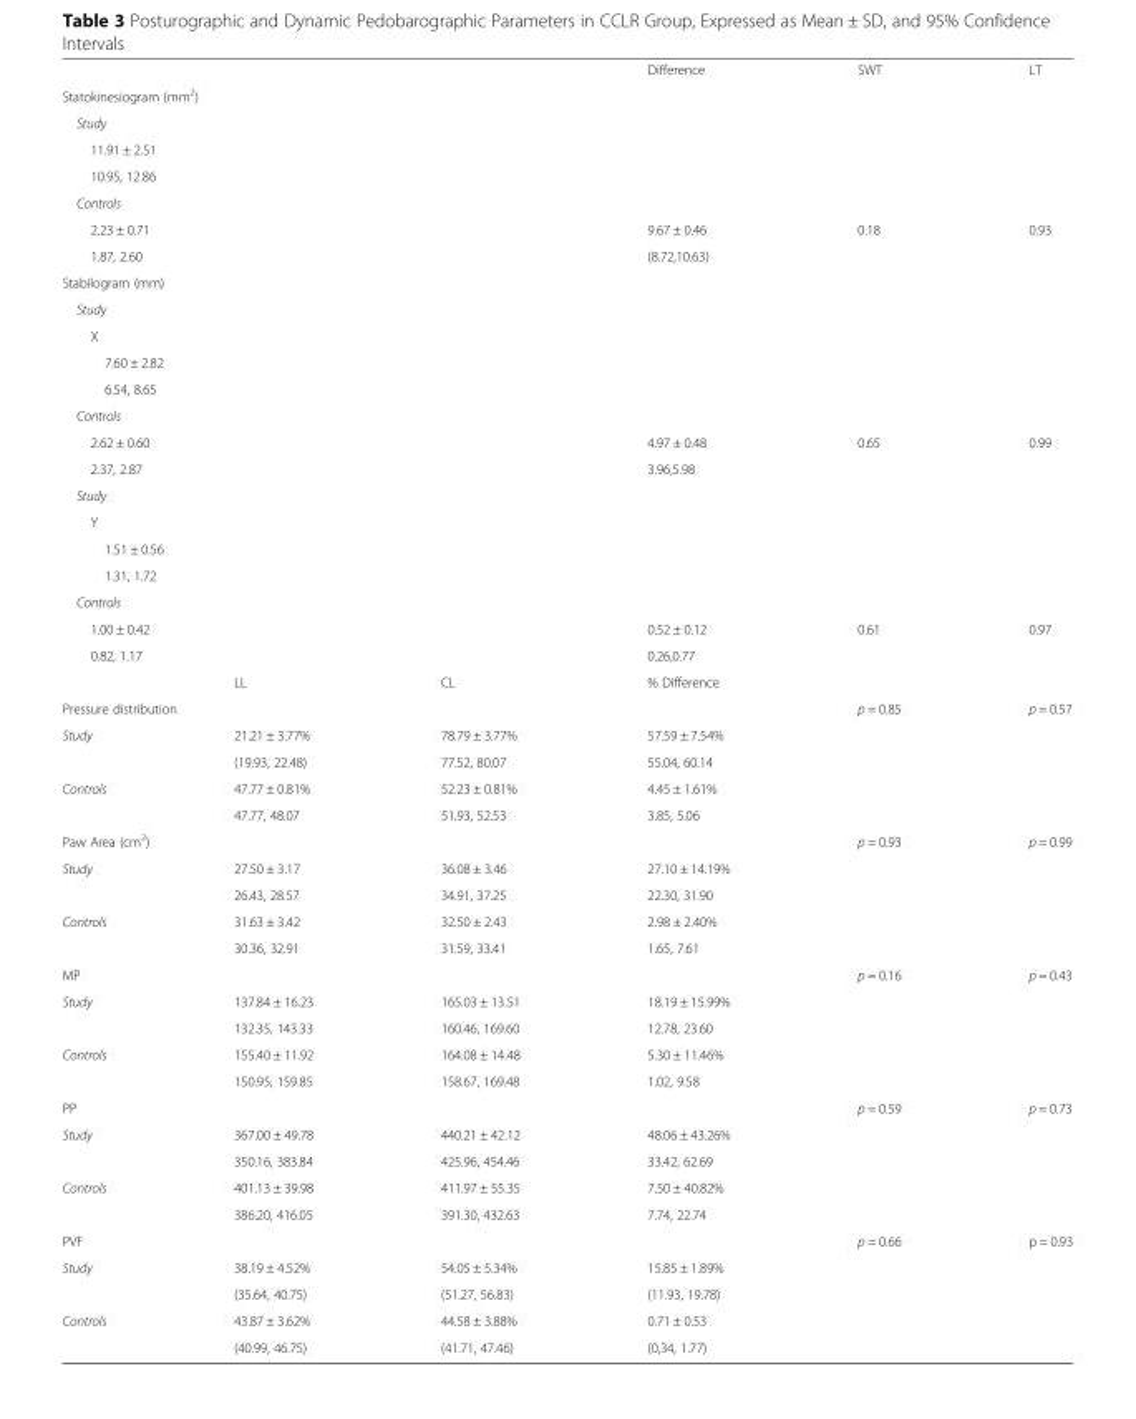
<table><thead><tr><td></td><td></td><td></td><td>Difference</td><td>SWT</td><td>LT</td></tr></thead><tbody><tr><td colspan="6">Statokinesiogram (mm<sup>2</sup>)</td></tr><tr><td colspan="6">Study</td></tr><tr><td colspan="5">11.91 ± 2.51</td><td rowspan="2"></td></tr><tr><td colspan="5">10.95, 12.86</td></tr><tr><td colspan="6">Controls</td></tr><tr><td colspan="3">2.23 ± 0.71</td><td>9.67 ± 0.46</td><td>0.18</td><td>0.93</td></tr><tr><td colspan="3">1.87, 2.60</td><td>(8.72,10.63)</td><td></td><td></td></tr><tr><td colspan="6">Stabilogram (mm)</td></tr><tr><td colspan="6">Study</td></tr><tr><td colspan="6">X</td></tr><tr><td colspan="5">7.60 ± 2.82</td><td rowspan="2"></td></tr><tr><td colspan="5">6.54, 8.65</td></tr><tr><td colspan="6">Controls</td></tr><tr><td colspan="3">2.62 ± 0.60</td><td>4.97 ± 0.48</td><td>0.65</td><td>0.99</td></tr><tr><td colspan="3">2.37, 2.87</td><td>3.96,5.98</td><td></td><td></td></tr><tr><td colspan="6">Study</td></tr><tr><td colspan="6">Y</td></tr><tr><td colspan="6">1.51 ± 0.56</td></tr><tr><td colspan="6">1.31, 1.72</td></tr><tr><td colspan="6">Controls</td></tr><tr><td colspan="3">1.00 ± 0.42</td><td>0.52 ± 0.12</td><td>0.61</td><td>0.97</td></tr><tr><td colspan="3">0.82, 1.17</td><td>0.26,0.77</td><td></td><td></td></tr><tr><td></td><td>LL</td><td>CL</td><td>% Difference</td><td></td><td></td></tr><tr><td colspan="4">Pressure distribution</td><td>p = 0.85</td><td>p = 0.57</td></tr><tr><td rowspan="2">Study</td><td>21.21 ± 3.77%</td><td>78.79 ± 3.77%</td><td>57.59 ± 7.54%</td><td></td><td></td></tr><tr><td>(19.93, 22.48)</td><td>77.52, 80.07</td><td>55.04, 60.14</td><td></td><td></td></tr><tr><td rowspan="2">Controls</td><td>47.77 ± 0.81%</td><td>52.23 ± 0.81%</td><td>4.45 ± 1.61%</td><td></td><td></td></tr><tr><td>47.77, 48.07</td><td>51.93, 52.53</td><td>3.85, 5.06</td><td></td><td></td></tr><tr><td colspan="4">Paw Area (cm<sup>2</sup>)</td><td>p = 0.93</td><td>p = 0.99</td></tr><tr><td rowspan="2">Study</td><td>27.50 ± 3.17</td><td>36.08 ± 3.46</td><td>27.10 ± 14.19%</td><td></td><td rowspan="2"></td></tr><tr><td>26.43, 28.57</td><td>34.91, 37.25</td><td>22.30, 31.90</td><td></td></tr><tr><td rowspan="2">Controls</td><td>31.63 ± 3.42</td><td>32.50 ± 2.43</td><td>2.98 ± 2.40%</td><td></td><td rowspan="2"></td></tr><tr><td>30.36, 32.91</td><td>31.59, 33.41</td><td>1.65, 7.61</td><td></td></tr><tr><td colspan="4">MP</td><td>p = 0.16</td><td>p = 0.43</td></tr><tr><td rowspan="2">Study</td><td>137.84 ± 16.23</td><td>165.03 ± 13.51</td><td>18.19 ± 15.99%</td><td></td><td></td></tr><tr><td>132.35, 143.33</td><td>160.46, 169.60</td><td>12.78, 23.60</td><td></td><td></td></tr><tr><td rowspan="2">Controls</td><td>155.40 ± 11.92</td><td>164.08 ± 14.48</td><td>5.30 ± 11.46%</td><td></td><td></td></tr><tr><td>150.95, 159.85</td><td>158.67, 169.48</td><td>1.02, 9.58</td><td></td><td></td></tr><tr><td colspan="4">PP</td><td>p = 0.59</td><td>p = 0.73</td></tr><tr><td rowspan="2">Study</td><td>367.00 ± 49.78</td><td>440.21 ± 42.12</td><td>48.06 ± 43.26%</td><td></td><td rowspan="2"></td></tr><tr><td>350.16, 383.84</td><td>425.96, 454.46</td><td>33.42, 62.69</td><td></td></tr><tr><td rowspan="2">Controls</td><td>401.13 ± 39.98</td><td>411.97 ± 55.35</td><td>7.50 ± 40.82%</td><td></td><td rowspan="2"></td></tr><tr><td>386.20, 416.05</td><td>391.30, 432.63</td><td>7.74, 22.74</td><td></td></tr><tr><td colspan="4">PVF</td><td>p = 0.66</td><td>p = 0.93</td></tr><tr><td rowspan="2">Study</td><td>38.19 ± 4.52%</td><td>54.05 ± 5.34%</td><td>15.85 ± 1.89%</td><td></td><td rowspan="2"></td></tr><tr><td>(35.64, 40.75)</td><td>(51.27, 56.83)</td><td>(11.93, 19.78)</td><td></td></tr><tr><td rowspan="2">Controls</td><td>43.87 ± 3.62%</td><td>44.58 ± 3.88%</td><td>0.71 ± 0.53</td><td></td><td rowspan="2"></td></tr><tr><td>(40.99, 46.75)</td><td>(41.71, 47.46)</td><td>(0,34, 1.77)</td><td></td></tr></tbody></table>